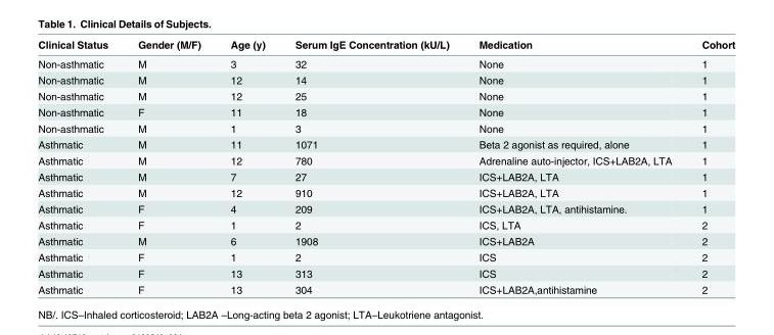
<table><thead><tr><td>Clinical Status</td><td>Gender (M/F)</td><td>Age (y)</td><td>Serum IgE Concentration (kU/L)</td><td>Medication</td><td>Cohort</td></tr></thead><tbody><tr><td>Non-asthmatic</td><td>M</td><td>3</td><td>32</td><td>None</td><td>1</td></tr><tr><td>Non-asthmatic</td><td>M</td><td>12</td><td>14</td><td>None</td><td>1</td></tr><tr><td>Non-asthmatic</td><td>M</td><td>12</td><td>25</td><td>None</td><td>1</td></tr><tr><td>Non-asthmatic</td><td>F</td><td>11</td><td>18</td><td>None</td><td>1</td></tr><tr><td>Non-asthmatic</td><td>M</td><td>1</td><td>3</td><td>None</td><td>1</td></tr><tr><td>Asthmatic</td><td>M</td><td>11</td><td>1071</td><td>Beta 2 agonist as required, alone</td><td>1</td></tr><tr><td>Asthmatic</td><td>M</td><td>12</td><td>780</td><td>Adrenaline auto-injector, ICS+LAB2A, LTA</td><td>1</td></tr><tr><td>Asthmatic</td><td>M</td><td>7</td><td>27</td><td>ICS+LAB2A, LTA</td><td>1</td></tr><tr><td>Asthmatic</td><td>M</td><td>12</td><td>910</td><td>ICS+LAB2A, LTA</td><td>1</td></tr><tr><td>Asthmatic</td><td>F</td><td>4</td><td>209</td><td>ICS+LAB2A, LTA, antihistamine.</td><td>1</td></tr><tr><td>Asthmatic</td><td>F</td><td>1</td><td>2</td><td>ICS, LTA</td><td>2</td></tr><tr><td>Asthmatic</td><td>M</td><td>6</td><td>1908</td><td>ICS+LAB2A</td><td>2</td></tr><tr><td>Asthmatic</td><td>F</td><td>1</td><td>2</td><td>ICS</td><td>2</td></tr><tr><td>Asthmatic</td><td>F</td><td>13</td><td>313</td><td>ICS</td><td>2</td></tr><tr><td>Asthmatic</td><td>F</td><td>13</td><td>304</td><td>ICS+LAB2A,antihistamine</td><td>2</td></tr></tbody></table>